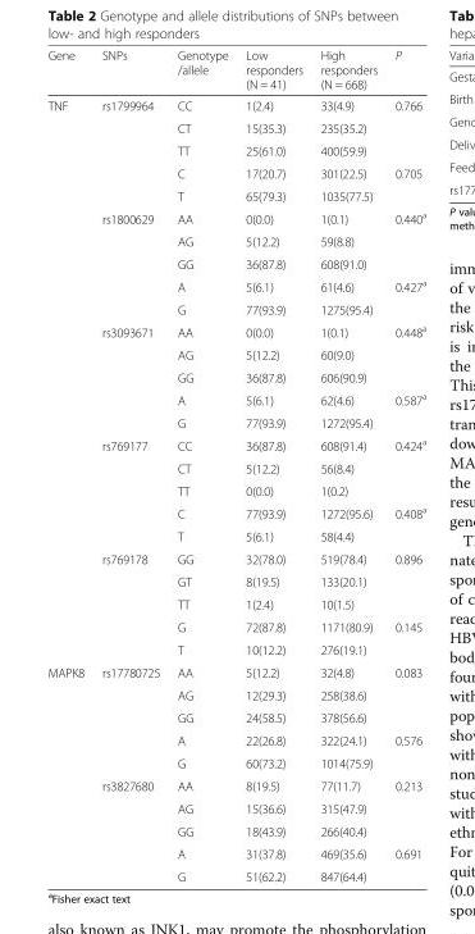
<table><thead><tr><td>Gene</td><td>SNPs</td><td>Genotype /allele</td><td>Low responders (N = 41)</td><td>High responders (N = 668)</td><td>P</td></tr></thead><tbody><tr><td rowspan="25">TNF</td><td>rs1799964</td><td>CC</td><td>1(2.4)</td><td>33(4.9)</td><td>0.766</td></tr><tr><td></td><td>CT</td><td>15(35.3)</td><td>235(35.2)</td><td></td></tr><tr><td></td><td>TT</td><td>25(61.0)</td><td>400(59.9)</td><td></td></tr><tr><td></td><td>C</td><td>17(20.7)</td><td>301(22.5)</td><td>0.705</td></tr><tr><td></td><td>T</td><td>65(79.3)</td><td>1035(77.5)</td><td></td></tr><tr><td>rs1800629</td><td>AA</td><td>0(0.0)</td><td>1(0.1)</td><td>0.440<sup>a</sup></td></tr><tr><td></td><td>AG</td><td>5(12.2)</td><td>59(8.8)</td><td></td></tr><tr><td></td><td>GG</td><td>36(87.8)</td><td>608(91.0)</td><td></td></tr><tr><td></td><td>A</td><td>5(6.1)</td><td>61(4.6)</td><td>0.427<sup>a</sup></td></tr><tr><td></td><td>G</td><td>77(93.9)</td><td>1275(95.4)</td><td></td></tr><tr><td>rs3093671</td><td>AA</td><td>0(0.0)</td><td>1(0.1)</td><td>0.448<sup>a</sup></td></tr><tr><td></td><td>AG</td><td>5(12.2)</td><td>60(9.0)</td><td></td></tr><tr><td></td><td>GG</td><td>36(87.8)</td><td>606(90.9)</td><td></td></tr><tr><td></td><td>A</td><td>5(6.1)</td><td>62(4.6)</td><td>0.587<sup>a</sup></td></tr><tr><td></td><td>G</td><td>77(93.9)</td><td>1272(95.4)</td><td></td></tr><tr><td>rs769177</td><td>CC</td><td>36(87.8)</td><td>608(91.4)</td><td>0.424<sup>a</sup></td></tr><tr><td></td><td>CT</td><td>5(12.2)</td><td>56(8.4)</td><td></td></tr><tr><td></td><td>TT</td><td>0(0.0)</td><td>1(0.2)</td><td></td></tr><tr><td></td><td>C</td><td>77(93.9)</td><td>1272(95.6)</td><td>0.408<sup>a</sup></td></tr><tr><td></td><td>T</td><td>5(6.1)</td><td>58(4.4)</td><td></td></tr><tr><td>rs769178</td><td>GG</td><td>32(78.0)</td><td>519(78.4)</td><td>0.896</td></tr><tr><td></td><td>GT</td><td>8(19.5)</td><td>133(20.1)</td><td></td></tr><tr><td></td><td>TT</td><td>1(2.4)</td><td>10(1.5)</td><td></td></tr><tr><td></td><td>G</td><td>72(87.8)</td><td>1171(80.9)</td><td>0.145</td></tr><tr><td></td><td>T</td><td>10(12.2)</td><td>276(19.1)</td><td></td></tr><tr><td rowspan="10">MAPK8</td><td>rs17780725</td><td>AA</td><td>5(12.2)</td><td>32(4.8)</td><td>0.083</td></tr><tr><td></td><td>AG</td><td>12(29.3)</td><td>258(38.6)</td><td></td></tr><tr><td></td><td>GG</td><td>24(58.5)</td><td>378(56.6)</td><td></td></tr><tr><td></td><td>A</td><td>22(26.8)</td><td>322(24.1)</td><td>0.576</td></tr><tr><td></td><td>G</td><td>60(73.2)</td><td>1014(75.9)</td><td></td></tr><tr><td>rs3827680</td><td>AA</td><td>8(19.5)</td><td>77(11.7)</td><td>0.213</td></tr><tr><td></td><td>AG</td><td>15(36.6)</td><td>315(47.9)</td><td></td></tr><tr><td></td><td>GG</td><td>18(43.9)</td><td>266(40.4)</td><td></td></tr><tr><td></td><td>A</td><td>31(37.8)</td><td>469(35.6)</td><td>0.691</td></tr><tr><td></td><td>G</td><td>51(62.2)</td><td>847(64.4)</td><td></td></tr></tbody></table>